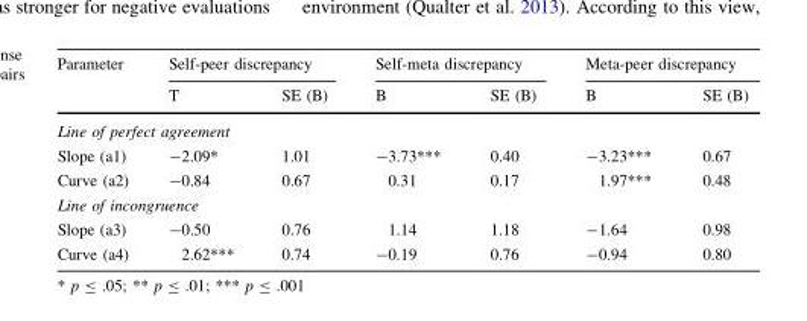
<table><thead><tr><td rowspan="2">Parameter</td><td colspan="2">Self-peer discrepancy</td><td colspan="2">Self-meta discrepancy</td><td colspan="2">Meta-peer discrepancy</td></tr><tr><td>T</td><td>SE (B)</td><td>B</td><td>SE (B)</td><td>B</td><td>SE (B)</td></tr></thead><tbody><tr><td colspan="7">Line of perfect agreement</td></tr><tr><td>Slope (a1)</td><td>-2.09*</td><td>1.01</td><td>-3.73***</td><td>0.40</td><td>-3.23***</td><td>0.67</td></tr><tr><td>Curve (a2)</td><td>-0.84</td><td>0.67</td><td>0.31</td><td>0.17</td><td>1.97***</td><td>0.48</td></tr><tr><td colspan="7">Line of incongruence</td></tr><tr><td>Slope (a3)</td><td>-0.50</td><td>0.76</td><td>1.14</td><td>1.18</td><td>-1.64</td><td>0.98</td></tr><tr><td>Curve (a4)</td><td>2.62***</td><td>0.74</td><td>-0.19</td><td>0.76</td><td>-0.94</td><td>0.80</td></tr></tbody></table>